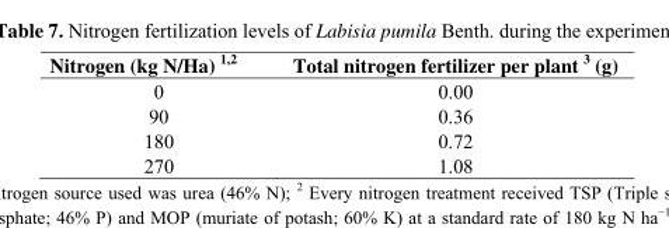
<table><thead><tr><td>Nitrogen (kg N/Ha) 1,2</td><td>Total nitrogen fertilizer per plant 3 (g)</td></tr></thead><tbody><tr><td>0</td><td>0.00</td></tr><tr><td>90</td><td>0.36</td></tr><tr><td>180</td><td>0.72</td></tr><tr><td>270</td><td>1.08</td></tr></tbody></table>